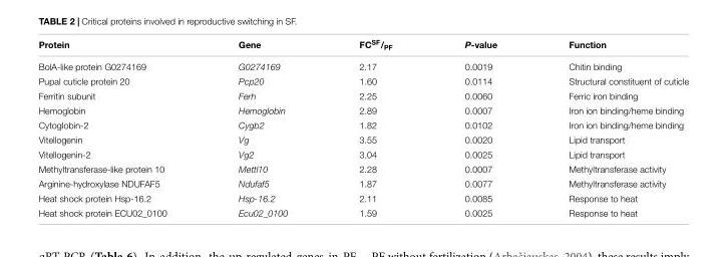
<table><thead><tr><td>Protein</td><td>Gene</td><td>FC<sup>SF</sup>/<sub>PF</sub></td><td>P-value</td><td>Function</td></tr></thead><tbody><tr><td>BolA-like protein G0274169</td><td>G0274169</td><td>2.17</td><td>0.0019</td><td>Chitin binding</td></tr><tr><td>Pupal cuticle protein 20</td><td>Pcp20</td><td>1.60</td><td>0.0114</td><td>Structural constituent of cuticle</td></tr><tr><td>Ferritin subunit</td><td>Ferh</td><td>2.25</td><td>0.0060</td><td>Ferric iron binding</td></tr><tr><td>Hemoglobin</td><td>Hemoglobin</td><td>2.89</td><td>0.0007</td><td>Iron ion binding/heme binding</td></tr><tr><td>Cytoglobin-2</td><td>Cygb2</td><td>1.82</td><td>0.0102</td><td>Iron ion binding/heme binding</td></tr><tr><td>Vitellogenin</td><td>Vg</td><td>3.55</td><td>0.0020</td><td>Lipid transport</td></tr><tr><td>Vitellogenin-2</td><td>Vg2</td><td>3.04</td><td>0.0025</td><td>Lipid transport</td></tr><tr><td>Methyltransferase-like protein 10</td><td>Mettl10</td><td>2.28</td><td>0.0007</td><td>Methyltransferase activity</td></tr><tr><td>Arginine-hydroxylase NDUFAF5</td><td>Ndufaf5</td><td>1.87</td><td>0.0077</td><td>Methyltransferase activity</td></tr><tr><td>Heat shock protein Hsp-16.2</td><td>Hsp-16.2</td><td>2.11</td><td>0.0085</td><td>Response to heat</td></tr><tr><td>Heat shock protein ECU02_0100</td><td>Ecu02_0100</td><td>1.59</td><td>0.0025</td><td>Response to heat</td></tr></tbody></table>